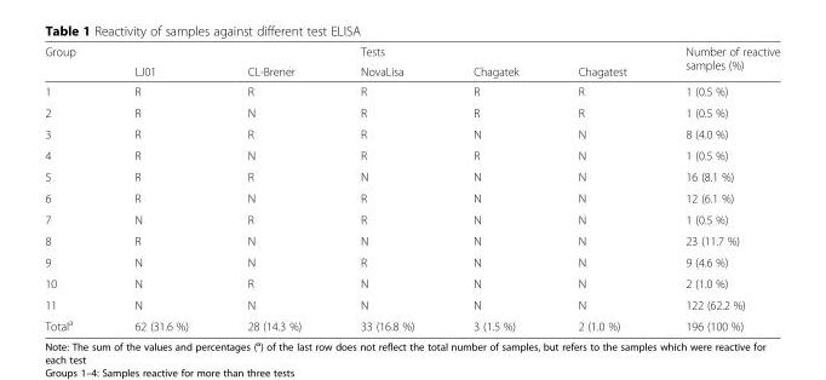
<table><thead><tr><td rowspan="2">Group</td><td rowspan="2">LJ01</td><td rowspan="2">CL-Brener</td><td rowspan="2">Tests NovaLisa</td><td rowspan="2">Chagatek</td><td rowspan="2">Chagatest</td><td rowspan="2">Number of reactive samples (%)</td></tr><tr></tr></thead><tbody><tr><td>1</td><td>R</td><td>R</td><td>R</td><td>R</td><td>R</td><td>1 (0.5 %)</td></tr><tr><td>2</td><td>R</td><td>N</td><td>R</td><td>R</td><td>R</td><td>1 (0.5 %)</td></tr><tr><td>3</td><td>R</td><td>R</td><td>R</td><td>N</td><td>N</td><td>8 (4.0 %)</td></tr><tr><td>4</td><td>R</td><td>N</td><td>R</td><td>R</td><td>N</td><td>1 (0.5 %)</td></tr><tr><td>5</td><td>R</td><td>R</td><td>N</td><td>N</td><td>N</td><td>16 (8.1 %)</td></tr><tr><td>6</td><td>R</td><td>N</td><td>R</td><td>N</td><td>N</td><td>12 (6.1 %)</td></tr><tr><td>7</td><td>N</td><td>R</td><td>R</td><td>N</td><td>N</td><td>1 (0.5 %)</td></tr><tr><td>8</td><td>R</td><td>N</td><td>N</td><td>N</td><td>N</td><td>23 (11.7 %)</td></tr><tr><td>9</td><td>N</td><td>N</td><td>R</td><td>N</td><td>N</td><td>9 (4.6 %)</td></tr><tr><td>10</td><td>N</td><td>R</td><td>N</td><td>N</td><td>N</td><td>2 (1.0 %)</td></tr><tr><td>11</td><td>N</td><td>N</td><td>N</td><td>N</td><td>N</td><td>122 (62.2 %)</td></tr><tr><td>Total<sup>a</sup></td><td>62 (31.6 %)</td><td>28 (14.3 %)</td><td>33 (16.8 %)</td><td>3 (1.5 %)</td><td>2 (1.0 %)</td><td>196 (100 %)</td></tr></tbody></table>